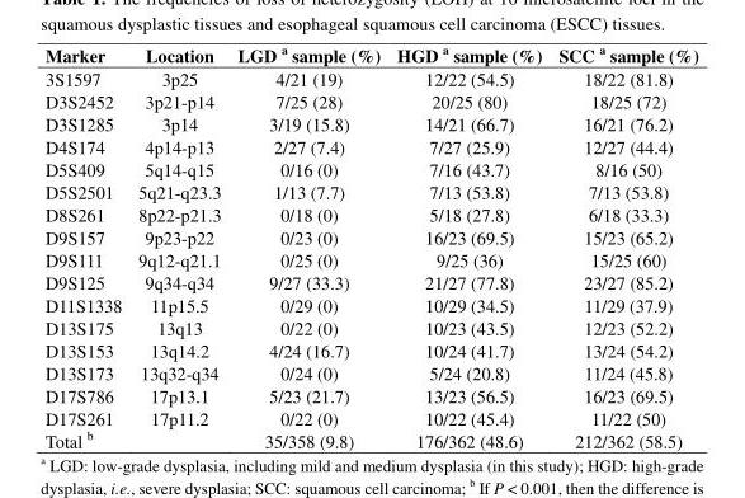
<table><thead><tr><td>Marker</td><td>Location</td><td>LGD a sample (%)</td><td>HGD a sample (%)</td><td>SCC a sample (%)</td></tr></thead><tbody><tr><td>3S1597</td><td>3p25</td><td>4/21 (19)</td><td>12/22 (54.5)</td><td>18/22 (81.8)</td></tr><tr><td>D3S2452</td><td>3p21-p14</td><td>7/25 (28)</td><td>20/25 (80)</td><td>18/25 (72)</td></tr><tr><td>D3S1285</td><td>3p14</td><td>3/19 (15.8)</td><td>14/21 (66.7)</td><td>16/21 (76.2)</td></tr><tr><td>D4S174</td><td>4p14-p13</td><td>2/27 (7.4)</td><td>7/27 (25.9)</td><td>12/27 (44.4)</td></tr><tr><td>D5S409</td><td>5q14-q15</td><td>0/16 (0)</td><td>7/16 (43.7)</td><td>8/16 (50)</td></tr><tr><td>D5S2501</td><td>5q21-q23.3</td><td>1/13 (7.7)</td><td>7/13 (53.8)</td><td>7/13 (53.8)</td></tr><tr><td>D8S261</td><td>8p22-p21.3</td><td>0/18 (0)</td><td>5/18 (27.8)</td><td>6/18 (33.3)</td></tr><tr><td>D9S157</td><td>9p23-p22</td><td>0/23 (0)</td><td>16/23 (69.5)</td><td>15/23 (65.2)</td></tr><tr><td>D9S111</td><td>9q12-q21.1</td><td>0/25 (0)</td><td>9/25 (36)</td><td>15/25 (60)</td></tr><tr><td>D9S125</td><td>9q34-q34</td><td>9/27 (33.3)</td><td>21/27 (77.8)</td><td>23/27 (85.2)</td></tr><tr><td>D11S1338</td><td>11p15.5</td><td>0/29 (0)</td><td>10/29 (34.5)</td><td>11/29 (37.9)</td></tr><tr><td>D13S175</td><td>13q13</td><td>0/22 (0)</td><td>10/23 (43.5)</td><td>12/23 (52.2)</td></tr><tr><td>D13S153</td><td>13q14.2</td><td>4/24 (16.7)</td><td>10/24 (41.7)</td><td>13/24 (54.2)</td></tr><tr><td>D13S173</td><td>13q32-q34</td><td>0/24 (0)</td><td>5/24 (20.8)</td><td>11/24 (45.8)</td></tr><tr><td>D17S786</td><td>17p13.1</td><td>5/23 (21.7)</td><td>13/23 (56.5)</td><td>16/23 (69.5)</td></tr><tr><td>D17S261</td><td>17p11.2</td><td>0/22 (0)</td><td>10/22 (45.4)</td><td>11/22 (50)</td></tr><tr><td>Total b</td><td></td><td>35/358 (9.8)</td><td>176/362 (48.6)</td><td>212/362 (58.5)</td></tr></tbody></table>